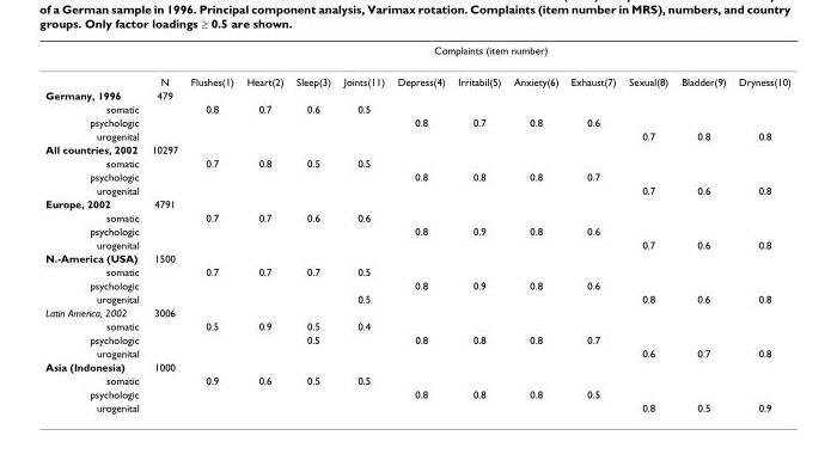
<table><thead><tr><td rowspan="2"></td><td rowspan="2">N</td><td colspan="11">Complaints (item number)</td></tr><tr><td>Flushes(1)</td><td>Heart(2)</td><td>Sleep(3)</td><td>Joints(11)</td><td>Depress(4)</td><td>Irritabil(5)</td><td>Anxiety(6)</td><td>Exhaust(7)</td><td>Sexual(8)</td><td>Bladder(9)</td><td>Dryness(10)</td></tr></thead><tbody><tr><td>Germany, 1996</td><td>479</td><td></td><td></td><td></td><td></td><td></td><td></td><td></td><td></td><td></td><td></td><td></td></tr><tr><td>somatic</td><td></td><td>0.8</td><td>0.7</td><td>0.6</td><td>0.5</td><td></td><td></td><td></td><td></td><td></td><td></td><td></td></tr><tr><td>psychologic</td><td></td><td></td><td></td><td></td><td></td><td>0.8</td><td>0.7</td><td>0.8</td><td>0.6</td><td></td><td></td><td></td></tr><tr><td>urogenital</td><td></td><td></td><td></td><td></td><td></td><td></td><td></td><td></td><td></td><td>0.7</td><td>0.8</td><td>0.8</td></tr><tr><td>All countries, 2002</td><td>10297</td><td></td><td></td><td></td><td></td><td></td><td></td><td></td><td></td><td></td><td></td><td></td></tr><tr><td>somatic</td><td></td><td>0.7</td><td>0.8</td><td>0.5</td><td>0.5</td><td></td><td></td><td></td><td></td><td></td><td></td><td></td></tr><tr><td>psychologic</td><td></td><td></td><td></td><td></td><td></td><td>0.8</td><td>0.8</td><td>0.8</td><td>0.7</td><td></td><td></td><td></td></tr><tr><td>urogenital</td><td></td><td></td><td></td><td></td><td></td><td></td><td></td><td></td><td></td><td>0.7</td><td>0.6</td><td>0.8</td></tr><tr><td>Europe, 2002</td><td>4791</td><td></td><td></td><td></td><td></td><td></td><td></td><td></td><td></td><td></td><td></td><td></td></tr><tr><td>somatic</td><td></td><td>0.7</td><td>0.7</td><td>0.6</td><td>0.6</td><td></td><td></td><td></td><td></td><td></td><td></td><td></td></tr><tr><td>psychologic</td><td></td><td></td><td></td><td></td><td></td><td>0.8</td><td>0.9</td><td>0.8</td><td>0.6</td><td></td><td></td><td></td></tr><tr><td>urogenital</td><td></td><td></td><td></td><td></td><td></td><td></td><td></td><td></td><td></td><td>0.7</td><td>0.6</td><td>0.8</td></tr><tr><td>N.-America (USA)</td><td>1500</td><td></td><td></td><td></td><td></td><td></td><td></td><td></td><td></td><td></td><td></td><td></td></tr><tr><td>somatic</td><td></td><td>0.7</td><td>0.7</td><td>0.7</td><td>0.5</td><td></td><td></td><td></td><td></td><td></td><td></td><td></td></tr><tr><td>psychologic</td><td></td><td></td><td></td><td></td><td></td><td>0.8</td><td>0.9</td><td>0.8</td><td>0.6</td><td></td><td></td><td></td></tr><tr><td>urogenital</td><td></td><td></td><td></td><td></td><td>0.5</td><td></td><td></td><td></td><td></td><td>0.8</td><td>0.6</td><td>0.8</td></tr><tr><td>Latin America, 2002</td><td>3006</td><td></td><td></td><td></td><td></td><td></td><td></td><td></td><td></td><td></td><td></td><td></td></tr><tr><td>somatic</td><td></td><td>0.5</td><td>0.9</td><td>0.5</td><td>0.4</td><td></td><td></td><td></td><td></td><td></td><td></td><td></td></tr><tr><td>psychologic</td><td></td><td></td><td></td><td>0.5</td><td></td><td>0.8</td><td>0.8</td><td>0.8</td><td>0.7</td><td></td><td></td><td></td></tr><tr><td>urogenital</td><td></td><td></td><td></td><td></td><td></td><td></td><td></td><td></td><td></td><td>0.6</td><td>0.7</td><td>0.8</td></tr><tr><td>Asia (Indonesia)</td><td>1000</td><td></td><td></td><td></td><td></td><td></td><td></td><td></td><td></td><td></td><td></td><td></td></tr><tr><td>somatic</td><td></td><td>0.9</td><td>0.6</td><td>0.5</td><td>0.5</td><td></td><td></td><td></td><td></td><td></td><td></td><td></td></tr><tr><td>psychologic</td><td></td><td></td><td></td><td></td><td></td><td>0.8</td><td>0.8</td><td>0.8</td><td>0.5</td><td></td><td></td><td></td></tr><tr><td>urogenital</td><td></td><td></td><td></td><td></td><td></td><td></td><td></td><td></td><td></td><td>0.8</td><td>0.5</td><td>0.9</td></tr></tbody></table>